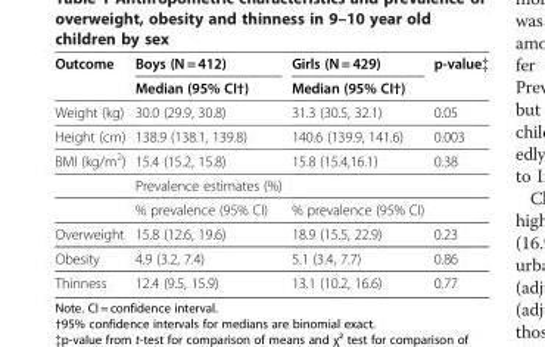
<table><thead><tr><td rowspan="2">Outcome</td><td rowspan="2">Boys (N = 412) Median (95% CI†)</td><td rowspan="2">Girls (N = 429) Median (95% CI†)</td><td rowspan="2">p-value‡</td></tr><tr></tr></thead><tbody><tr><td>Weight (kg)</td><td>30.0 (29.9, 30.8)</td><td>31.3 (30.5, 32.1)</td><td>0.05</td></tr><tr><td>Height (cm)</td><td>138.9 (138.1, 139.8)</td><td>140.6 (139.9, 141.6)</td><td>0.003</td></tr><tr><td rowspan="3">BMI (kg/m<sup>2</sup>)</td><td>15.4 (15.2, 15.8)</td><td>15.8 (15.4,16.1)</td><td>0.38</td></tr><tr><td>Prevalence estimates (%)</td><td></td><td></td></tr><tr><td>% prevalence (95% CI)</td><td>% prevalence (95% CI)</td><td></td></tr><tr><td>Overweight</td><td>15.8 (12.6, 19.6)</td><td>18.9 (15.5, 22.9)</td><td>0.23</td></tr><tr><td>Obesity</td><td>4.9 (3.2, 7.4)</td><td>5.1 (3.4, 7.7)</td><td>0.86</td></tr><tr><td>Thinness</td><td>12.4 (9.5, 15.9)</td><td>13.1 (10.2, 16.6)</td><td>0.77</td></tr></tbody></table>